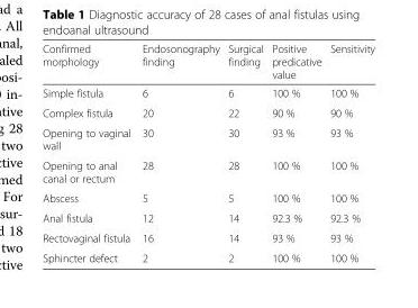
<table><thead><tr><td>Confirmed morphology</td><td>Endosonography finding</td><td>Surgical finding</td><td>Positive predicative value</td><td>Sensitivity</td></tr></thead><tbody><tr><td>Simple fistula</td><td>6</td><td>6</td><td>100 %</td><td>100 %</td></tr><tr><td>Complex fistula</td><td>20</td><td>22</td><td>90 %</td><td>90 %</td></tr><tr><td>Opening to vaginal wall</td><td>30</td><td>30</td><td>93 %</td><td>93 %</td></tr><tr><td>Opening to anal canal or rectum</td><td>28</td><td>28</td><td>100 %</td><td>100 %</td></tr><tr><td>Abscess</td><td>5</td><td>5</td><td>100 %</td><td>100 %</td></tr><tr><td>Anal fistula</td><td>12</td><td>14</td><td>92.3 %</td><td>92.3 %</td></tr><tr><td>Rectovaginal fistula</td><td>16</td><td>14</td><td>93 %</td><td>93 %</td></tr><tr><td>Sphincter defect</td><td>2</td><td>2</td><td>100 %</td><td>100 %</td></tr></tbody></table>